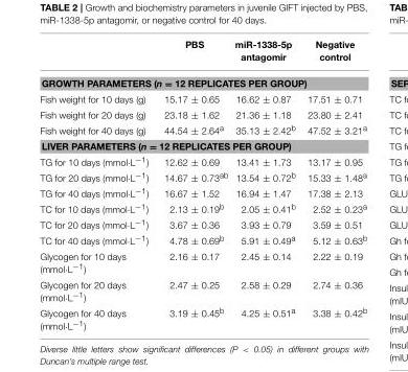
<table><thead><tr><td></td><td>PBS</td><td>miR-1338-5p antagomir</td><td>Negative control</td></tr></thead><tbody><tr><td colspan="4">GROWTH PARAMETERS (n = 12 REPLICATES PER GROUP)</td></tr><tr><td>Fish weight for 10 days (g)</td><td>15.17 ± 0.65</td><td>16.62 ± 0.87</td><td>17.51 ± 0.71</td></tr><tr><td>Fish weight for 20 days (g)</td><td>23.18 ± 1.62</td><td>21.36 ± 1.18</td><td>23.80 ± 2.41</td></tr><tr><td>Fish weight for 40 days (g)</td><td>44.54 ± 2.64<sup>a</sup></td><td>35.13 ± 2.42<sup>b</sup></td><td>47.52 ± 3.21<sup>a</sup></td></tr><tr><td colspan="4">LIVER PARAMETERS (n = 12 REPLICATES PER GROUP)</td></tr><tr><td>TG for 10 days (mmol·L<sup>−1</sup>)</td><td>12.62 ± 0.69</td><td>13.41 ± 1.73</td><td>13.17 ± 0.95</td></tr><tr><td>TG for 20 days (mmol·L<sup>−1</sup>)</td><td>14.67 ± 0.73<sup>ab</sup></td><td>13.54 ± 0.72<sup>b</sup></td><td>15.33 ± 1.48<sup>a</sup></td></tr><tr><td>TG for 40 days (mmol·L<sup>−1</sup>)</td><td>16.67 ± 1.52</td><td>16.94 ± 1.47</td><td>17.38 ± 2.13</td></tr><tr><td>TC for 10 days (mmol·L<sup>−1</sup>)</td><td>2.13 ± 0.19<sup>b</sup></td><td>2.05 ± 0.41<sup>b</sup></td><td>2.52 ± 0.23<sup>a</sup></td></tr><tr><td>TC for 20 days (mmol·L<sup>−1</sup>)</td><td>3.67 ± 0.36</td><td>3.93 ± 0.79</td><td>3.59 ± 0.51</td></tr><tr><td>TC for 40 days (mmol·L<sup>−1</sup>)</td><td>4.78 ± 0.69<sup>b</sup></td><td>5.91 ± 0.49<sup>a</sup></td><td>5.12 ± 0.63<sup>b</sup></td></tr><tr><td>Glycogen for 10 days (mmol·L<sup>−1</sup>)</td><td>2.16 ± 0.17</td><td>2.45 ± 0.14</td><td>2.22 ± 0.19</td></tr><tr><td>Glycogen for 20 days (mmol·L<sup>−1</sup>)</td><td>2.47 ± 0.25</td><td>2.58 ± 0.29</td><td>2.74 ± 0.36</td></tr><tr><td>Glycogen for 40 days (mmol·L<sup>−1</sup>)</td><td>3.19 ± 0.45<sup>b</sup></td><td>4.25 ± 0.51<sup>a</sup></td><td>3.38 ± 0.42<sup>b</sup></td></tr></tbody></table>